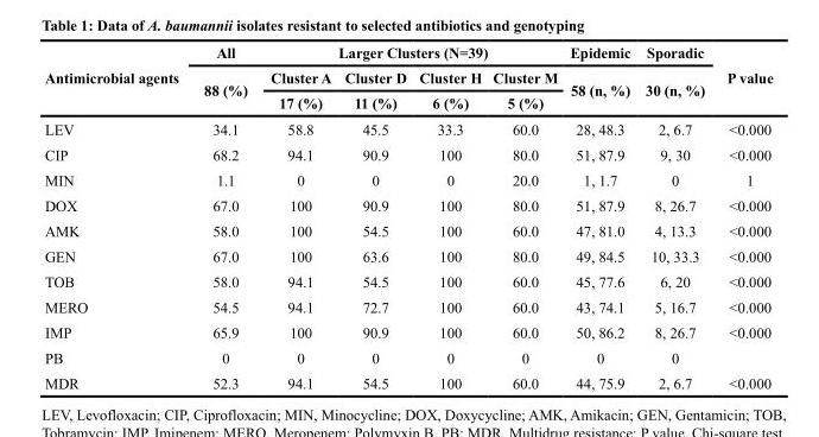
<table><thead><tr><td rowspan="3">Antimicrobial agents</td><td rowspan="3">All 88 (%)</td><td colspan="4">Larger Clusters (N=39)</td><td rowspan="3">Epidemic 58 (n, %)</td><td rowspan="3">Sporadic 30 (n, %)</td><td rowspan="3">P value</td></tr><tr><td rowspan="2">Cluster A 17 (%)</td><td rowspan="2">Cluster D 11 (%)</td><td rowspan="2">Cluster H 6 (%)</td><td rowspan="2">Cluster M 5 (%)</td></tr><tr></tr></thead><tbody><tr><td>LEV</td><td>34.1</td><td>58.8</td><td>45.5</td><td>33.3</td><td>60.0</td><td>28, 48.3</td><td>2, 6.7</td><td>&lt;0.000</td></tr><tr><td>CIP</td><td>68.2</td><td>94.1</td><td>90.9</td><td>100</td><td>80.0</td><td>51, 87.9</td><td>9, 30</td><td>&lt;0.000</td></tr><tr><td>MIN</td><td>1.1</td><td>0</td><td>0</td><td>0</td><td>20.0</td><td>1, 1.7</td><td>0</td><td>1</td></tr><tr><td>DOX</td><td>67.0</td><td>100</td><td>90.9</td><td>100</td><td>80.0</td><td>51, 87.9</td><td>8, 26.7</td><td>&lt;0.000</td></tr><tr><td>AMK</td><td>58.0</td><td>100</td><td>54.5</td><td>100</td><td>60.0</td><td>47, 81.0</td><td>4, 13.3</td><td>&lt;0.000</td></tr><tr><td>GEN</td><td>67.0</td><td>100</td><td>63.6</td><td>100</td><td>80.0</td><td>49, 84.5</td><td>10, 33.3</td><td>&lt;0.000</td></tr><tr><td>TOB</td><td>58.0</td><td>94.1</td><td>54.5</td><td>100</td><td>60.0</td><td>45, 77.6</td><td>6, 20</td><td>&lt;0.000</td></tr><tr><td>MERO</td><td>54.5</td><td>94.1</td><td>72.7</td><td>100</td><td>60.0</td><td>43, 74.1</td><td>5, 16.7</td><td>&lt;0.000</td></tr><tr><td>IMP</td><td>65.9</td><td>100</td><td>90.9</td><td>100</td><td>60.0</td><td>50, 86.2</td><td>8, 26.7</td><td>&lt;0.000</td></tr><tr><td>PB</td><td>0</td><td>0</td><td>0</td><td>0</td><td>0</td><td>0</td><td>0</td><td></td></tr><tr><td>MDR</td><td>52.3</td><td>94.1</td><td>54.5</td><td>100</td><td>60.0</td><td>44, 75.9</td><td>2, 6.7</td><td>&lt;0.000</td></tr></tbody></table>